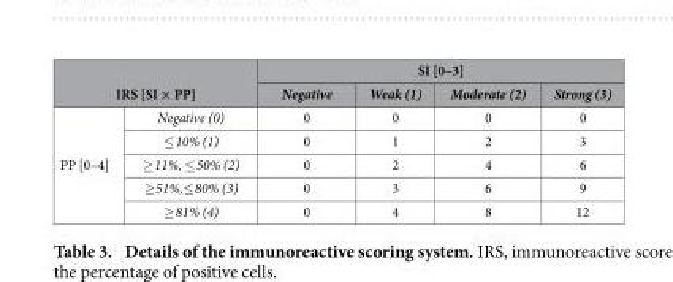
<table><thead><tr><td></td><td></td><td colspan="4">SI [0–3]</td></tr><tr><td colspan="2">IRS [SI × PP]</td><td>Negative</td><td>Weak (1)</td><td>Moderate (2)</td><td>Strong (3)</td></tr></thead><tbody><tr><td rowspan="5">PP [0–4]</td><td>Negative (0)</td><td>0</td><td>0</td><td>0</td><td>0</td></tr><tr><td>≤ 10% (1)</td><td>0</td><td>1</td><td>2</td><td>3</td></tr><tr><td>≥ 11%, ≤ 50% (2)</td><td>0</td><td>2</td><td>4</td><td>6</td></tr><tr><td>≥ 51%,≤ 80% (3)</td><td>0</td><td>3</td><td>6</td><td>9</td></tr><tr><td>≥ 81% (4)</td><td>0</td><td>4</td><td>8</td><td>12</td></tr></tbody></table>